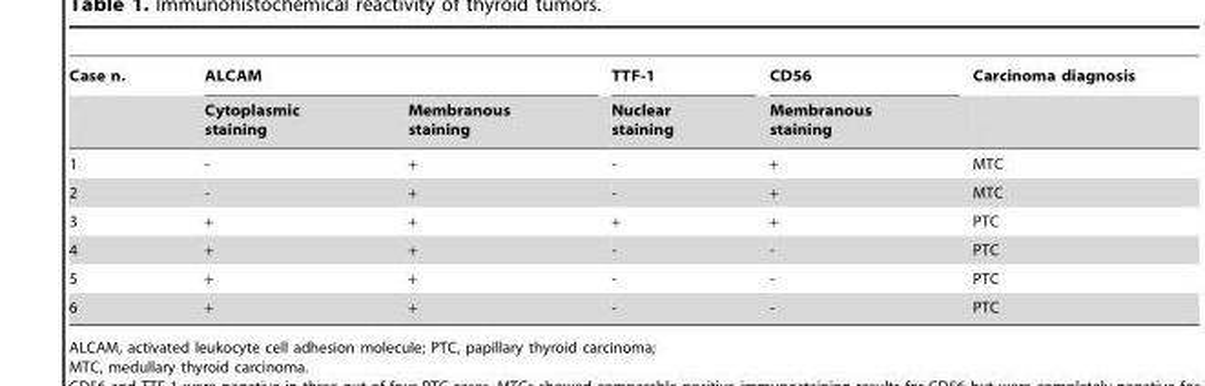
<table><thead><tr><td rowspan="2">Case n.</td><td colspan="2">ALCAM</td><td rowspan="2">TTF-1 Nuclear staining</td><td rowspan="2">CD56 Membranous staining</td><td rowspan="2">Carcinoma diagnosis</td></tr><tr><td>Cytoplasmic staining</td><td>Membranous staining</td></tr></thead><tbody><tr><td>1</td><td>-</td><td>+</td><td>-</td><td>+</td><td>MTC</td></tr><tr><td>2</td><td>-</td><td>+</td><td>-</td><td>+</td><td>MTC</td></tr><tr><td>3</td><td>+</td><td>+</td><td>+</td><td>+</td><td>PTC</td></tr><tr><td>4</td><td>+</td><td>+</td><td>-</td><td>-</td><td>PTC</td></tr><tr><td>5</td><td>+</td><td>+</td><td>-</td><td>-</td><td>PTC</td></tr><tr><td>6</td><td>+</td><td>+</td><td>-</td><td>-</td><td>PTC</td></tr></tbody></table>